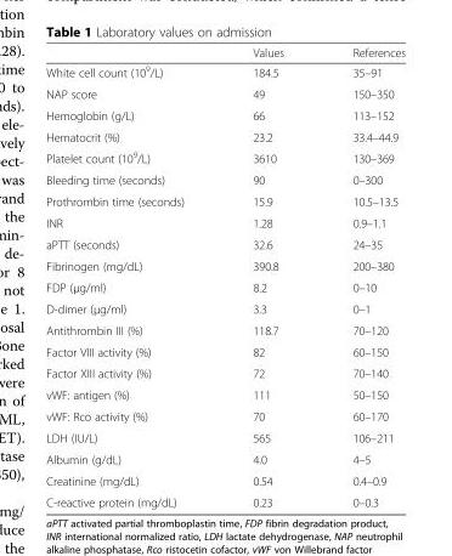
<table><thead><tr><td></td><td>Values</td><td>References</td></tr></thead><tbody><tr><td>White cell count (10<sup>9</sup>/L)</td><td>184.5</td><td>35–91</td></tr><tr><td>NAP score</td><td>49</td><td>150–350</td></tr><tr><td>Hemoglobin (g/L)</td><td>66</td><td>113–152</td></tr><tr><td>Hematocrit (%)</td><td>23.2</td><td>33.4–44.9</td></tr><tr><td>Platelet count (10<sup>9</sup>/L)</td><td>3610</td><td>130–369</td></tr><tr><td>Bleeding time (seconds)</td><td>90</td><td>0–300</td></tr><tr><td>Prothrombin time (seconds)</td><td>15.9</td><td>10.5–13.5</td></tr><tr><td>INR</td><td>1.28</td><td>0.9–1.1</td></tr><tr><td>aPTT (seconds)</td><td>32.6</td><td>24–35</td></tr><tr><td>Fibrinogen (mg/dL)</td><td>390.8</td><td>200–380</td></tr><tr><td>FDP (μg/ml)</td><td>8.2</td><td>0–10</td></tr><tr><td>D-dimer (μg/ml)</td><td>3.3</td><td>0–1</td></tr><tr><td>Antithrombin III (%)</td><td>118.7</td><td>70–120</td></tr><tr><td>Factor VIII activity (%)</td><td>82</td><td>60–150</td></tr><tr><td>Factor XIII activity (%)</td><td>72</td><td>70–140</td></tr><tr><td>vWF: antigen (%)</td><td>111</td><td>50–150</td></tr><tr><td>vWF: Rco activity (%)</td><td>70</td><td>60–170</td></tr><tr><td>LDH (IU/L)</td><td>565</td><td>106–211</td></tr><tr><td>Albumin (g/dL)</td><td>4.0</td><td>4–5</td></tr><tr><td>Creatinine (mg/dL)</td><td>0.54</td><td>0.4–0.9</td></tr><tr><td>C-reactive protein (mg/dL)</td><td>0.23</td><td>0–0.3</td></tr></tbody></table>